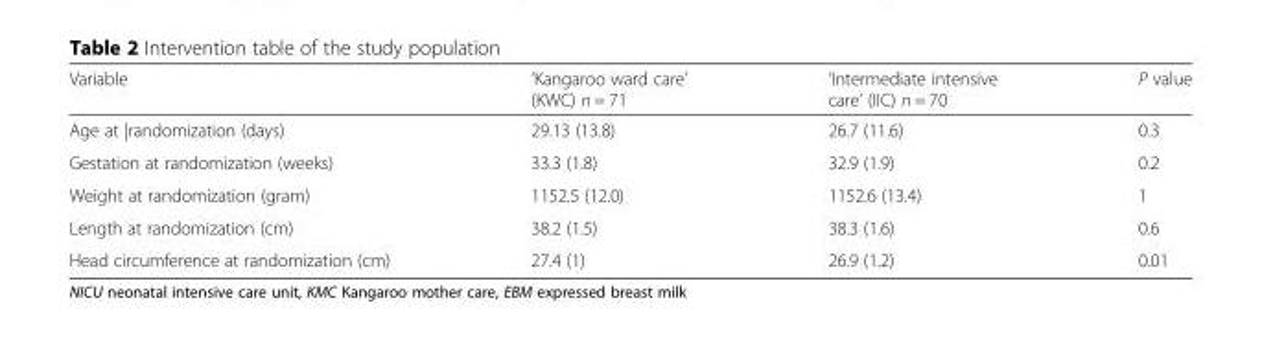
<table><thead><tr><td>Variable</td><td>‘Kangaroo ward care’ (KWC) n = 71</td><td>‘Intermediate intensive care’ (IIC) n = 70</td><td>P value</td></tr></thead><tbody><tr><td>Age at |randomization (days)</td><td>29.13 (13.8)</td><td>26.7 (11.6)</td><td>0.3</td></tr><tr><td>Gestation at randomization (weeks)</td><td>33.3 (1.8)</td><td>32.9 (1.9)</td><td>0.2</td></tr><tr><td>Weight at randomization (gram)</td><td>1152.5 (12.0)</td><td>1152.6 (13.4)</td><td>1</td></tr><tr><td>Length at randomization (cm)</td><td>38.2 (1.5)</td><td>38.3 (1.6)</td><td>0.6</td></tr><tr><td>Head circumference at randomization (cm)</td><td>27.4 (1)</td><td>26.9 (1.2)</td><td>0.01</td></tr></tbody></table>